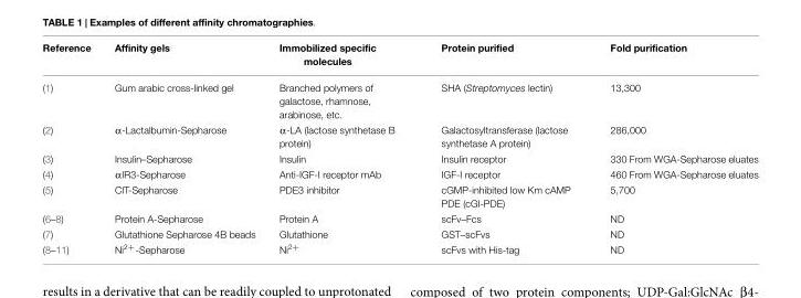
<table><thead><tr><td>Reference</td><td>Affinity gels</td><td>Immobilized specific molecules</td><td>Protein purified</td><td>Fold purification</td></tr></thead><tbody><tr><td>(1)</td><td>Gum arabic cross-linked gel</td><td>Branched polymers of galactose, rhamnose, arabinose, etc.</td><td>SHA (Streptomyces lectin)</td><td>13,300</td></tr><tr><td>(2)</td><td>α-Lactalbumin-Sepharose</td><td>α-LA (lactose synthetase B protein)</td><td>Galactosyltransferase (lactose synthetase A protein)</td><td>286,000</td></tr><tr><td>(3)</td><td>Insulin–Sepharose</td><td>Insulin</td><td>Insulin receptor</td><td>330 From WGA-Sepharose eluates</td></tr><tr><td>(4)</td><td>αIR3-Sepharose</td><td>Anti-IGF-I receptor mAb</td><td>IGF-I receptor</td><td>460 From WGA-Sepharose eluates</td></tr><tr><td>(5)</td><td>CIT-Sepharose</td><td>PDE3 inhibitor</td><td>cGMP-inhibited low Km cAMP PDE (cGI-PDE)</td><td>5,700</td></tr><tr><td>(6–8)</td><td>Protein A-Sepharose</td><td>Protein A</td><td>scFv–Fcs</td><td>ND</td></tr><tr><td>(7)</td><td>Glutathione Sepharose 4B beads</td><td>Glutathione</td><td>GST–scFvs</td><td>ND</td></tr><tr><td>(8–11)</td><td>Ni<sup>2+</sup>-Sepharose</td><td>Ni<sup>2+</sup></td><td>scFvs with His-tag</td><td>ND</td></tr></tbody></table>